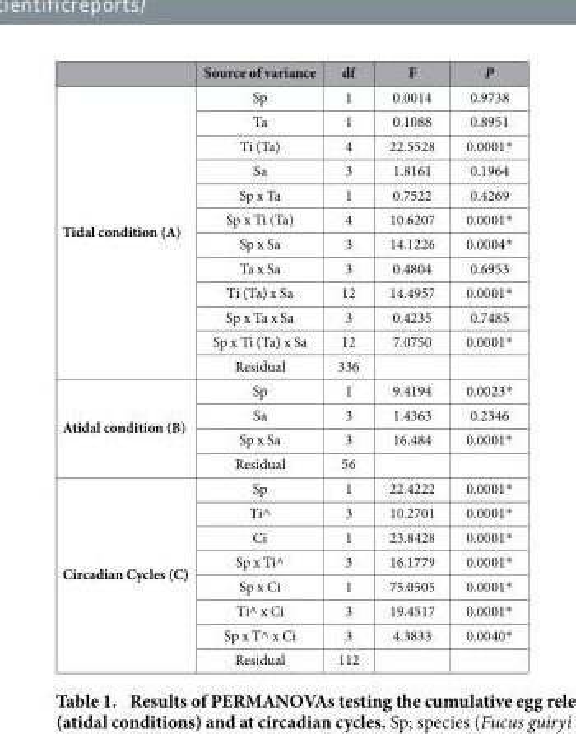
<table><thead><tr><td></td><td>Source of variance</td><td>df</td><td>F</td><td>P</td></tr></thead><tbody><tr><td rowspan="12">Tidal condition (A)</td><td>Sp</td><td>1</td><td>0.0014</td><td>0.9738</td></tr><tr><td>Ta</td><td>1</td><td>0.1088</td><td>0.8951</td></tr><tr><td>Ti (Ta)</td><td>4</td><td>22.5528</td><td>0.0001*</td></tr><tr><td>Sa</td><td>3</td><td>1.8161</td><td>0.1964</td></tr><tr><td>Sp x Ta</td><td>1</td><td>0.7522</td><td>0.4269</td></tr><tr><td>Sp x Ti (Ta)</td><td>4</td><td>10.6207</td><td>0.0001*</td></tr><tr><td>Sp x Sa</td><td>3</td><td>14.1226</td><td>0.0004*</td></tr><tr><td>Ta x Sa</td><td>3</td><td>0.4804</td><td>0.6953</td></tr><tr><td>Ti (Ta) x Sa</td><td>12</td><td>14.4957</td><td>0.0001*</td></tr><tr><td>Sp x Ta x Sa</td><td>3</td><td>0.4235</td><td>0.7485</td></tr><tr><td>Sp x Ti (Ta) x Sa</td><td>12</td><td>7.0750</td><td>0.0001*</td></tr><tr><td>Residual</td><td>336</td><td></td><td></td></tr><tr><td rowspan="4">Atidal condition (B)</td><td>Sp</td><td>1</td><td>9.4194</td><td>0.0023*</td></tr><tr><td>Sa</td><td>3</td><td>1.4363</td><td>0.2346</td></tr><tr><td>Sp x Sa</td><td>3</td><td>16.484</td><td>0.0001*</td></tr><tr><td>Residual</td><td>56</td><td></td><td></td></tr><tr><td rowspan="8">Circadian Cycles (C)</td><td>Sp</td><td>1</td><td>22.4222</td><td>0.0001*</td></tr><tr><td>Ti^</td><td>3</td><td>10.2701</td><td>0.0001*</td></tr><tr><td>Ci</td><td>1</td><td>23.8428</td><td>0.0001*</td></tr><tr><td>Sp x Ti^</td><td>3</td><td>16.1779</td><td>0.0001*</td></tr><tr><td>Sp x Ci</td><td>1</td><td>75.0505</td><td>0.0001*</td></tr><tr><td>Ti^ x Ci</td><td>3</td><td>19.4517</td><td>0.0001*</td></tr><tr><td>Sp x T^ x Ci</td><td>3</td><td>4.3833</td><td>0.0040*</td></tr><tr><td>Residual</td><td>112</td><td></td><td></td></tr></tbody></table>